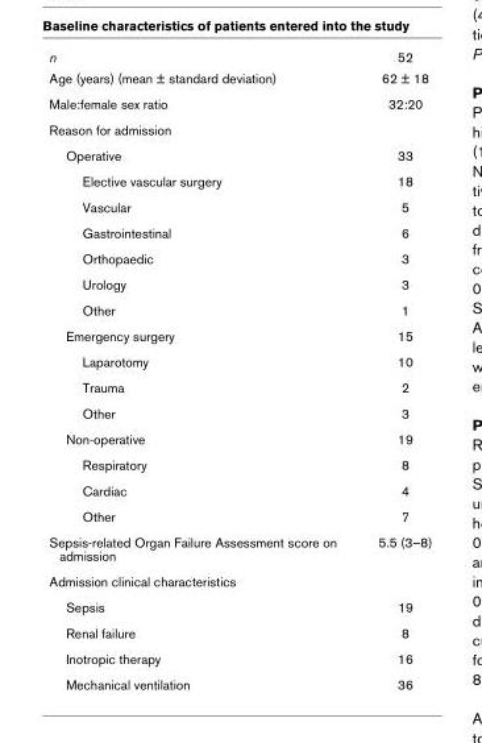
<table><tbody><tr><td>n</td><td>52</td></tr><tr><td>Age (years) (mean ± standard deviation)</td><td>62 ± 18</td></tr><tr><td>Male:female sex ratio</td><td>32:20</td></tr><tr><td colspan="2">Reason for admission</td></tr><tr><td>Operative</td><td>33</td></tr><tr><td>Elective vascular surgery</td><td>18</td></tr><tr><td>Vascular</td><td>5</td></tr><tr><td>Gastrointestinal</td><td>6</td></tr><tr><td>Orthopaedic</td><td>3</td></tr><tr><td>Urology</td><td>3</td></tr><tr><td>Other</td><td>1</td></tr><tr><td>Emergency surgery</td><td>15</td></tr><tr><td>Laparotomy</td><td>10</td></tr><tr><td>Trauma</td><td>2</td></tr><tr><td>Other</td><td>3</td></tr><tr><td>Non-operative</td><td>19</td></tr><tr><td>Respiratory</td><td>8</td></tr><tr><td>Cardiac</td><td>4</td></tr><tr><td>Other</td><td>7</td></tr><tr><td>Sepsis-related Organ Failure Assessment score on admission</td><td>5.5 (3–8)</td></tr><tr><td colspan="2">Admission clinical characteristics</td></tr><tr><td>Sepsis</td><td>19</td></tr><tr><td>Renal failure</td><td>8</td></tr><tr><td>Inotropic therapy</td><td>16</td></tr><tr><td>Mechanical ventilation</td><td>36</td></tr></tbody></table>